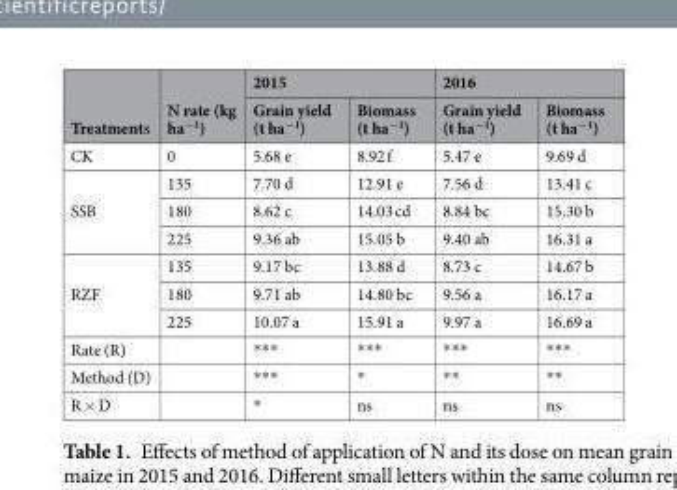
<table><thead><tr><td rowspan="2">Treatments</td><td rowspan="2">N rate (kg ha<sup>−1</sup>)</td><td colspan="2">2015</td><td colspan="2">2016</td></tr><tr><td>Grain yield (t ha<sup>−1</sup>)</td><td>Biomass (t ha<sup>−1</sup>)</td><td>Grain yield (t ha<sup>−1</sup>)</td><td>Biomass (t ha<sup>−1</sup>)</td></tr></thead><tbody><tr><td>CK</td><td>0</td><td>5.68 e</td><td>8.92 f</td><td>5.47 e</td><td>9.69 d</td></tr><tr><td rowspan="3">SSB</td><td>135</td><td>7.70 d</td><td>12.91 e</td><td>7.56 d</td><td>13.41 c</td></tr><tr><td>180</td><td>8.62 c</td><td>14.03 cd</td><td>8.84 bc</td><td>15.30 b</td></tr><tr><td>225</td><td>9.36 ab</td><td>15.05 b</td><td>9.40 ab</td><td>16.31 a</td></tr><tr><td rowspan="3">RZF</td><td>135</td><td>9.17 bc</td><td>13.88 d</td><td>8.73 c</td><td>14.67 b</td></tr><tr><td>180</td><td>9.71 ab</td><td>14.80 bc</td><td>9.56 a</td><td>16.17 a</td></tr><tr><td>225</td><td>10.07 a</td><td>15.91 a</td><td>9.97 a</td><td>16.69 a</td></tr><tr><td>Rate (R)</td><td></td><td>***</td><td>***</td><td>***</td><td>***</td></tr><tr><td>Method (D)</td><td></td><td>***</td><td>*</td><td>**</td><td>**</td></tr><tr><td>R × D</td><td></td><td>*</td><td>ns</td><td>ns</td><td>ns</td></tr></tbody></table>